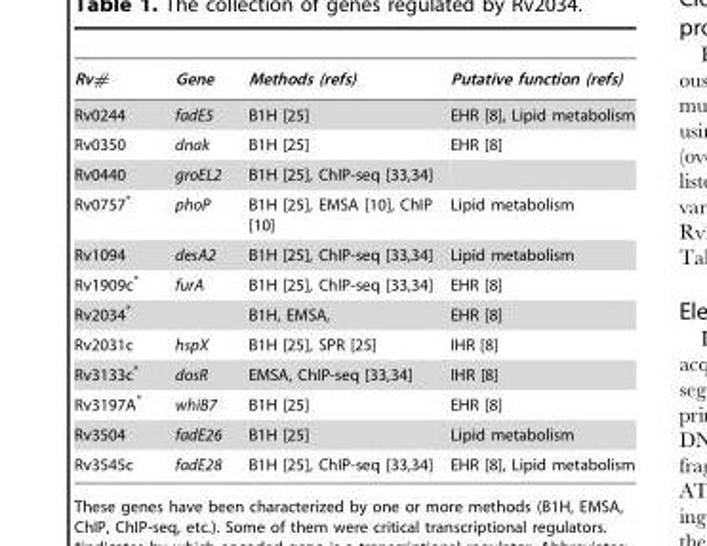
<table><thead><tr><td>Rv#</td><td>Gene</td><td>Methods (refs)</td><td>Putative function (refs)</td></tr></thead><tbody><tr><td>Rv0244</td><td>fadE5</td><td>B1H [25]</td><td>EHR [8], Lipid metabolism</td></tr><tr><td>Rv0350</td><td>dnak</td><td>B1H [25]</td><td>EHR [8]</td></tr><tr><td>Rv0440</td><td>groEL2</td><td>B1H [25], ChIP-seq [33,34]</td><td></td></tr><tr><td>Rv0757*</td><td>phoP</td><td>B1H [25], EMSA [10], ChIP [10]</td><td>Lipid metabolism</td></tr><tr><td>Rv1094</td><td>desA2</td><td>B1H [25], ChIP-seq [33,34]</td><td>Lipid metabolism</td></tr><tr><td>Rv1909c*</td><td>furA</td><td>B1H [25], ChIP-seq [33,34]</td><td>EHR [8]</td></tr><tr><td>Rv2034*</td><td></td><td>B1H, EMSA,</td><td>EHR [8]</td></tr><tr><td>Rv2031c</td><td>hspX</td><td>B1H [25], SPR [25]</td><td>IHR [8]</td></tr><tr><td>Rv3133c*</td><td>dosR</td><td>EMSA, ChIP-seq [33,34]</td><td>IHR [8]</td></tr><tr><td>Rv3197A*</td><td>whiB7</td><td>B1H [25]</td><td>EHR [8]</td></tr><tr><td>Rv3504</td><td>fadE26</td><td>B1H [25]</td><td>Lipid metabolism</td></tr><tr><td>Rv3545c</td><td>fadE28</td><td>B1H [25], ChIP-seq [33,34]</td><td>EHR [8], Lipid metabolism</td></tr></tbody></table>